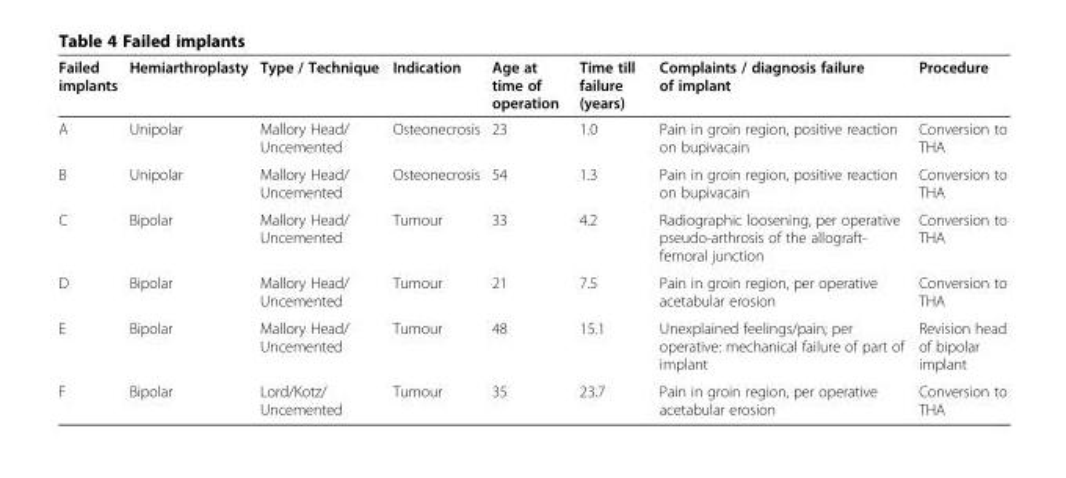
<table><thead><tr><td>Failed implants</td><td>Hemiarthroplasty</td><td>Type / Technique</td><td>Indication</td><td>Age at time of operation</td><td>Time till failure (years)</td><td>Complaints / diagnosis failure of implant</td><td>Procedure</td></tr></thead><tbody><tr><td>A</td><td>Unipolar</td><td>Mallory Head/ Uncemented</td><td>Osteonecrosis</td><td>23</td><td>1.0</td><td>Pain in groin region, positive reaction on bupivacain</td><td>Conversion to THA</td></tr><tr><td>B</td><td>Unipolar</td><td>Mallory Head/ Uncemented</td><td>Osteonecrosis</td><td>54</td><td>1.3</td><td>Pain in groin region, positive reaction on bupivacain</td><td>Conversion to THA</td></tr><tr><td>C</td><td>Bipolar</td><td>Mallory Head/ Uncemented</td><td>Tumour</td><td>33</td><td>4.2</td><td>Radiographic loosening, per operative pseudo-arthrosis of the allograft- femoral junction</td><td>Conversion to THA</td></tr><tr><td>D</td><td>Bipolar</td><td>Mallory Head/ Uncemented</td><td>Tumour</td><td>21</td><td>7.5</td><td>Pain in groin region, per operative acetabular erosion</td><td>Conversion to THA</td></tr><tr><td>E</td><td>Bipolar</td><td>Mallory Head/ Uncemented</td><td>Tumour</td><td>48</td><td>15.1</td><td>Unexplained feelings/pain; per operative: mechanical failure of part of implant</td><td>Revision head of bipolar implant</td></tr><tr><td>F</td><td>Bipolar</td><td>Lord/Kotz/ Uncemented</td><td>Tumour</td><td>35</td><td>23.7</td><td>Pain in groin region, per operative acetabular erosion</td><td>Conversion to THA</td></tr></tbody></table>